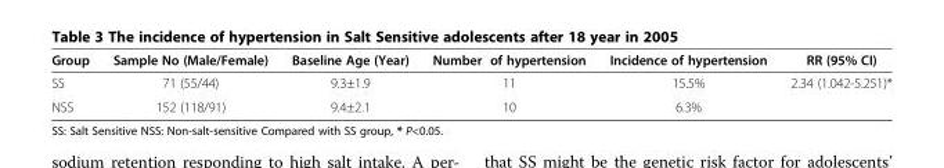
<table><thead><tr><td>Group</td><td>Sample No (Male/Female)</td><td>Baseline Age (Year)</td><td>Number of hypertension</td><td>Incidence of hypertension</td><td>RR (95% CI)</td></tr></thead><tbody><tr><td>SS</td><td>71 (55/44)</td><td>9.3±1.9</td><td>11</td><td>15.5%</td><td>2.34 (1.042-5.251)*</td></tr><tr><td>NSS</td><td>152 (118/91)</td><td>9.4±2.1</td><td>10</td><td>6.3%</td><td></td></tr></tbody></table>